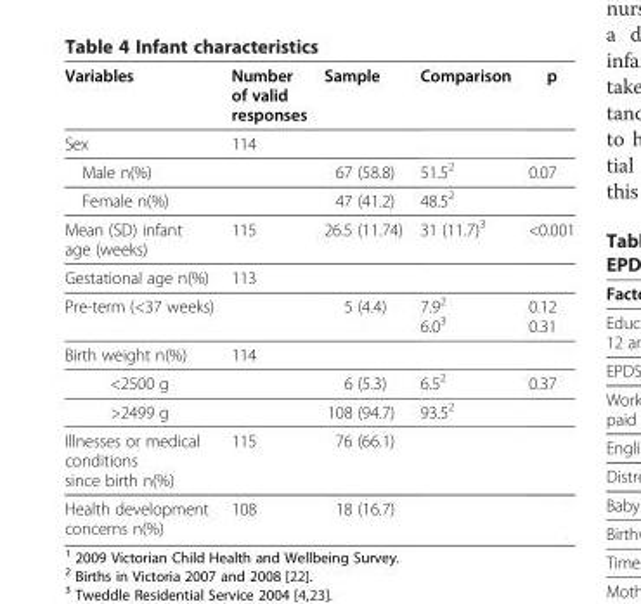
<table><thead><tr><td>Variables</td><td>Number of valid responses</td><td>Sample</td><td>Comparison</td><td>p</td></tr></thead><tbody><tr><td>Sex</td><td>114</td><td></td><td></td><td></td></tr><tr><td>Male n(%)</td><td></td><td>67 (58.8)</td><td>51.5<sup>2</sup></td><td>0.07</td></tr><tr><td>Female n(%)</td><td></td><td>47 (41.2)</td><td>48.5<sup>2</sup></td><td></td></tr><tr><td>Mean (SD) infant age (weeks)</td><td>115</td><td>26.5 (11.74)</td><td>31 (11.7)<sup>3</sup></td><td>&lt;0.001</td></tr><tr><td>Gestational age n(%)</td><td>113</td><td></td><td></td><td></td></tr><tr><td>Pre-term (&lt;37 weeks)</td><td></td><td>5 (4.4)</td><td>7.9<sup>2</sup> 6.0<sup>3</sup></td><td>0.12 0.31</td></tr><tr><td>Birth weight n(%)</td><td>114</td><td></td><td></td><td></td></tr><tr><td>&lt;2500 g</td><td></td><td>6 (5.3)</td><td>6.5<sup>2</sup></td><td>0.37</td></tr><tr><td>&gt;2499 g</td><td></td><td>108 (94.7)</td><td>93.5<sup>2</sup></td><td></td></tr><tr><td>Illnesses or medical conditions since birth n(%)</td><td>115</td><td>76 (66.1)</td><td></td><td></td></tr><tr><td>Health development concerns n(%)</td><td>108</td><td>18 (16.7)</td><td></td><td></td></tr></tbody></table>